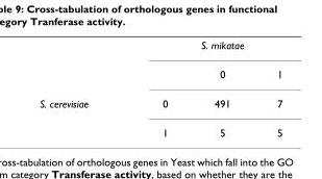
<table><thead><tr><td rowspan="2"></td><td colspan="3">S. mikatae</td></tr><tr><td></td><td>0</td><td>1</td></tr></thead><tbody><tr><td rowspan="2">S. cerevisiae</td><td>0</td><td>491</td><td>7</td></tr><tr><td>1</td><td>5</td><td>5</td></tr></tbody></table>